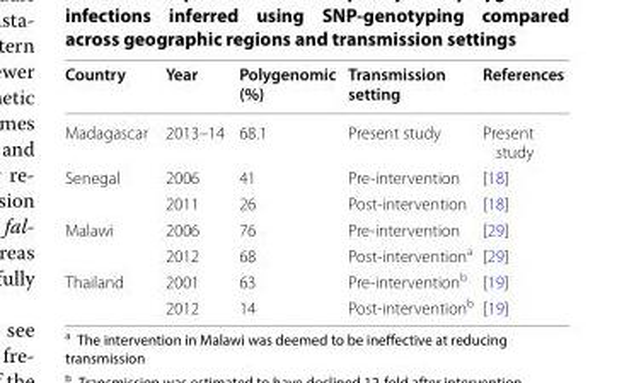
<table><thead><tr><td>Country</td><td>Year</td><td>Polygenomic (%)</td><td>Transmission setting</td><td>References</td></tr></thead><tbody><tr><td>Madagascar</td><td>2013–14</td><td>68.1</td><td>Present study</td><td>Present study</td></tr><tr><td rowspan="2">Senegal</td><td>2006</td><td>41</td><td>Pre-intervention</td><td>[18]</td></tr><tr><td>2011</td><td>26</td><td>Post-intervention</td><td>[18]</td></tr><tr><td rowspan="2">Malawi</td><td>2006</td><td>76</td><td>Pre-intervention</td><td>[29]</td></tr><tr><td>2012</td><td>68</td><td>Post-intervention<sup>a</sup></td><td>[29]</td></tr><tr><td rowspan="2">Thailand</td><td>2001</td><td>63</td><td>Pre-intervention<sup>b</sup></td><td>[19]</td></tr><tr><td>2012</td><td>14</td><td>Post-intervention<sup>b</sup></td><td>[19]</td></tr></tbody></table>